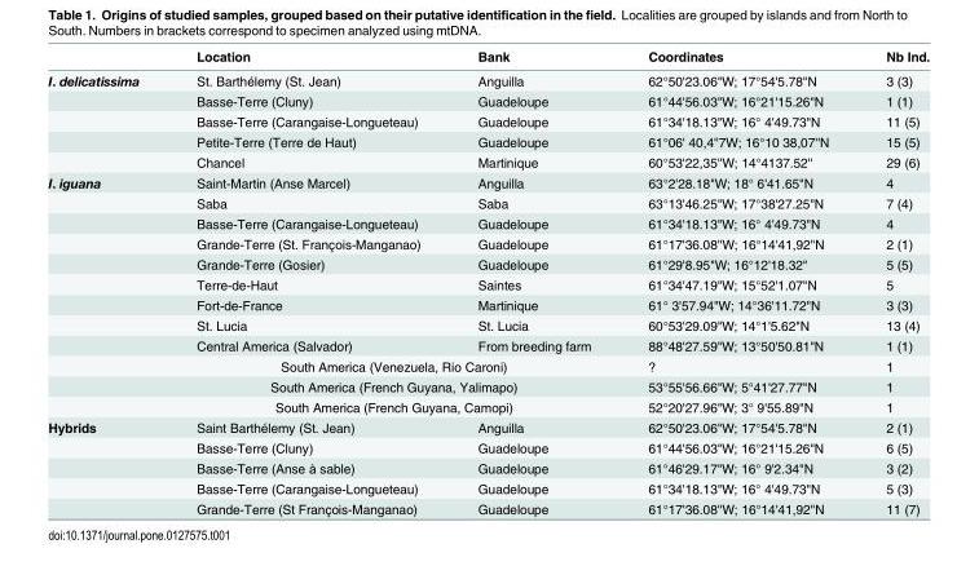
<table><thead><tr><td></td><td>Location</td><td>Bank</td><td>Coordinates</td><td>Nb Ind.</td></tr></thead><tbody><tr><td rowspan="5">I. delicatissima</td><td>St. Barthélemy (St. Jean)</td><td>Anguilla</td><td>62°50&#x27;23.06&quot;W; 17°54&#x27;5.78&quot;N</td><td>3 (3)</td></tr><tr><td>Basse-Terre (Cluny)</td><td>Guadeloupe</td><td>61°44&#x27;56.03&quot;W; 16°21&#x27;15.26&quot;N</td><td>1 (1)</td></tr><tr><td>Basse-Terre (Carangaise-Longueteau)</td><td>Guadeloupe</td><td>61°34&#x27;18.13&quot;W; 16° 4&#x27;49.73&quot;N</td><td>11 (5)</td></tr><tr><td>Petite-Terre (Terre de Haut)</td><td>Guadeloupe</td><td>61°06&#x27; 40,4&#x27;&#x27;7W; 16°10 38,07&#x27;&#x27;N</td><td>15 (5)</td></tr><tr><td>Chancel</td><td>Martinique</td><td>60°53&#x27;22,35&#x27;&#x27;W; 14°4137.52&#x27;&#x27;</td><td>29 (6)</td></tr><tr><td rowspan="12">I. iguana</td><td>Saint-Martin (Anse Marcel)</td><td>Anguilla</td><td>63°2&#x27;28.18&quot;W; 18° 6&#x27;41.65&quot;N</td><td>4</td></tr><tr><td>Saba</td><td>Saba</td><td>63°13&#x27;46.25&quot;W; 17°38&#x27;27.25&quot;N</td><td>7 (4)</td></tr><tr><td>Basse-Terre (Carangaise-Longueteau)</td><td>Guadeloupe</td><td>61°34&#x27;18.13&quot;W; 16° 4&#x27;49.73&quot;N</td><td>4</td></tr><tr><td>Grande-Terre (St. François-Manganao)</td><td>Guadeloupe</td><td>61°17&#x27;36.08&#x27;&#x27;W; 16°14&#x27;41,92&#x27;&#x27;N</td><td>2 (1)</td></tr><tr><td>Grande-Terre (Gosier)</td><td>Guadeloupe</td><td>61°29&#x27;8.95&quot;W; 16°12&#x27;18.32&quot;</td><td>5 (5)</td></tr><tr><td>Terre-de-Haut</td><td>Saintes</td><td>61°34&#x27;47.19&quot;W; 15°52&#x27;1.07&quot;N</td><td>5</td></tr><tr><td>Fort-de-France</td><td>Martinique</td><td>61° 3&#x27;57.94&quot;W; 14°36&#x27;11.72&quot;N</td><td>3 (3)</td></tr><tr><td>St. Lucia</td><td>St. Lucia</td><td>60°53&#x27;29.09&quot;W; 14°1&#x27;5.62&quot;N</td><td>13 (4)</td></tr><tr><td>Central America (Salvador)</td><td>From breeding farm</td><td>88°48&#x27;27.59&quot;W; 13°50&#x27;50.81&quot;N</td><td>1 (1)</td></tr><tr><td colspan="2">South America (Venezuela, Rio Caroni)</td><td>?</td><td>1</td></tr><tr><td colspan="2">South America (French Guyana, Yalimapo)</td><td>53°55&#x27;56.66&quot;W; 5°41&#x27;27.77&quot;N</td><td>1</td></tr><tr><td colspan="2">South America (French Guyana, Camopi)</td><td>52°20&#x27;27.96&quot;W; 3° 9&#x27;55.89&quot;N</td><td>1</td></tr><tr><td rowspan="5">Hybrids</td><td>Saint Barthélemy (St. Jean)</td><td>Anguilla</td><td>62°50&#x27;23.06&quot;W; 17°54&#x27;5.78&quot;N</td><td>2 (1)</td></tr><tr><td>Basse-Terre (Cluny)</td><td>Guadeloupe</td><td>61°44&#x27;56.03&quot;W; 16°21&#x27;15.26&quot;N</td><td>6 (5)</td></tr><tr><td>Basse-Terre (Anse à sable)</td><td>Guadeloupe</td><td>61°46&#x27;29.17&quot;W; 16° 9&#x27;2.34&quot;N</td><td>3 (2)</td></tr><tr><td>Basse-Terre (Carangaise-Longueteau)</td><td>Guadeloupe</td><td>61°34&#x27;18.13&quot;W; 16° 4&#x27;49.73&quot;N</td><td>5 (3)</td></tr><tr><td>Grande-Terre (St François-Manganao)</td><td>Guadeloupe</td><td>61°17&#x27;36.08&#x27;&#x27;W; 16°14&#x27;41,92&#x27;&#x27;N</td><td>11 (7)</td></tr></tbody></table>